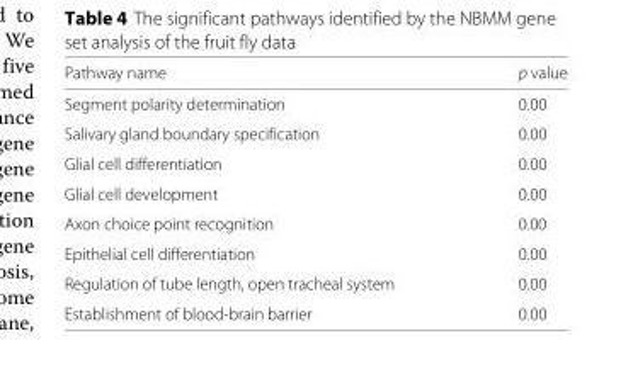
<table><thead><tr><td>Pathway name</td><td>p value</td></tr></thead><tbody><tr><td>Segment polarity determination</td><td>0.00</td></tr><tr><td>Salivary gland boundary specification</td><td>0.00</td></tr><tr><td>Glial cell differentiation</td><td>0.00</td></tr><tr><td>Glial cell development</td><td>0.00</td></tr><tr><td>Axon choice point recognition</td><td>0.00</td></tr><tr><td>Epithelial cell differentiation</td><td>0.00</td></tr><tr><td>Regulation of tube length, open tracheal system</td><td>0.00</td></tr><tr><td>Establishment of blood-brain barrier</td><td>0.00</td></tr></tbody></table>